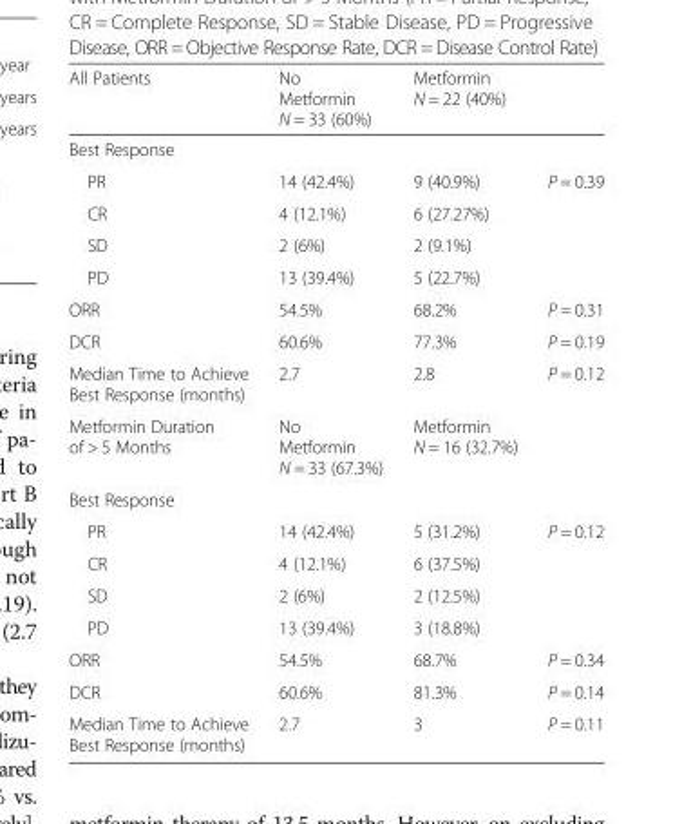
<table><thead><tr><td>All Patients</td><td>No Metformin N = 33 (60%)</td><td>Metformin N = 22 (40%)</td><td></td></tr></thead><tbody><tr><td colspan="4">Best Response</td></tr><tr><td>PR</td><td>14 (42.4%)</td><td>9 (40.9%)</td><td rowspan="4">P = 0.39</td></tr><tr><td>CR</td><td>4 (12.1%)</td><td>6 (27.27%)</td></tr><tr><td>SD</td><td>2 (6%)</td><td>2 (9.1%)</td></tr><tr><td>PD</td><td>13 (39.4%)</td><td>5 (22.7%)</td></tr><tr><td>ORR</td><td>54.5%</td><td>68.2%</td><td>P = 0.31</td></tr><tr><td>DCR</td><td>60.6%</td><td>77.3%</td><td>P = 0.19</td></tr><tr><td>Median Time to Achieve Best Response (months)</td><td>2.7</td><td>2.8</td><td>P = 0.12</td></tr><tr><td>Metformin Duration of &gt; 5 Months</td><td>No Metformin N = 33 (67.3%)</td><td>Metformin N = 16 (32.7%)</td><td></td></tr><tr><td colspan="4">Best Response</td></tr><tr><td>PR</td><td>14 (42.4%)</td><td>5 (31.2%)</td><td rowspan="4">P = 0.12</td></tr><tr><td>CR</td><td>4 (12.1%)</td><td>6 (37.5%)</td></tr><tr><td>SD</td><td>2 (6%)</td><td>2 (12.5%)</td></tr><tr><td>PD</td><td>13 (39.4%)</td><td>3 (18.8%)</td></tr><tr><td>ORR</td><td>54.5%</td><td>68.7%</td><td>P = 0.34</td></tr><tr><td>DCR</td><td>60.6%</td><td>81.3%</td><td>P = 0.14</td></tr><tr><td>Median Time to Achieve Best Response (months)</td><td>2.7</td><td>3</td><td>P = 0.11</td></tr></tbody></table>